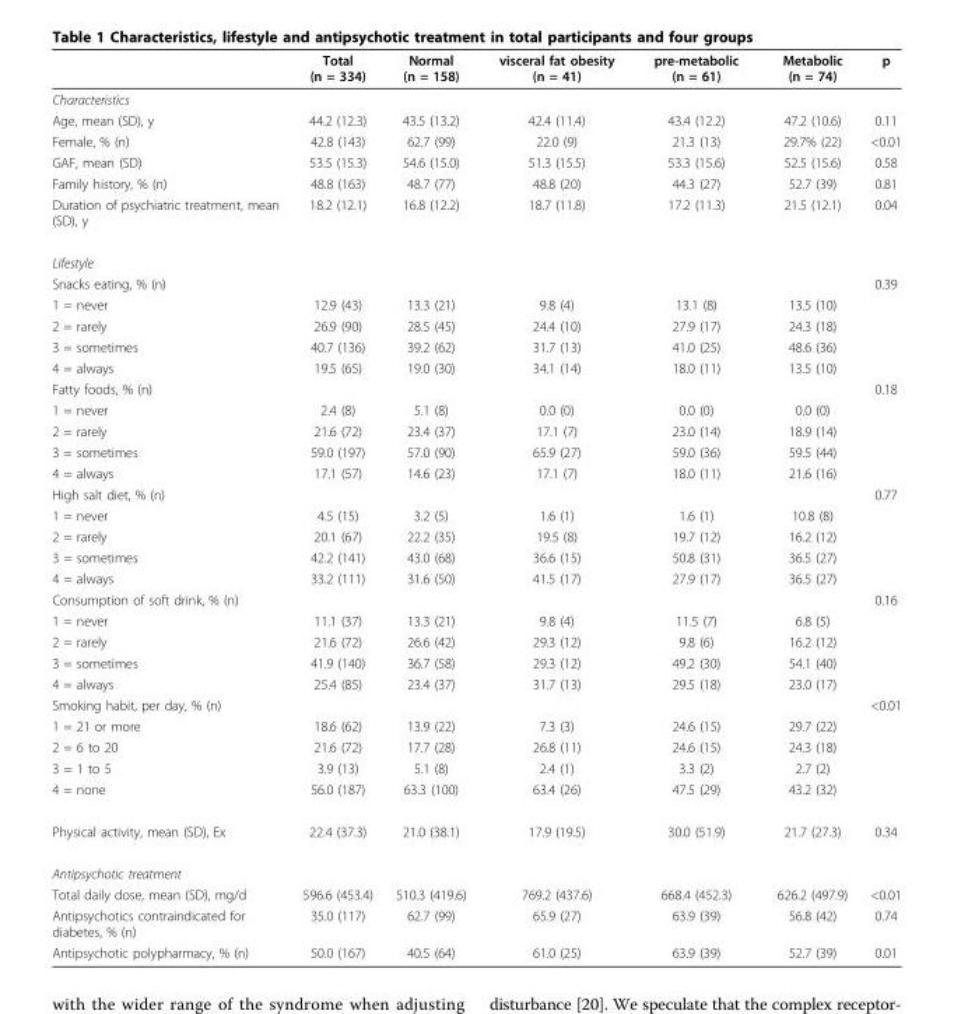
<table><thead><tr><td></td><td>Total (n = 334)</td><td>Normal (n = 158)</td><td>visceral fat obesity (n = 41)</td><td>pre-metabolic (n = 61)</td><td>Metabolic (n = 74)</td><td>p</td></tr></thead><tbody><tr><td colspan="7">Characteristics</td></tr><tr><td>Age, mean (SD), y</td><td>44.2 (12.3)</td><td>43.5 (13.2)</td><td>42.4 (11.4)</td><td>43.4 (12.2)</td><td>47.2 (10.6)</td><td>0.11</td></tr><tr><td>Female, % (n)</td><td>42.8 (143)</td><td>62.7 (99)</td><td>22.0 (9)</td><td>21.3 (13)</td><td>29.7% (22)</td><td>&lt;0.01</td></tr><tr><td>GAF, mean (SD)</td><td>53.5 (15.3)</td><td>54.6 (15.0)</td><td>51.3 (15.5)</td><td>53.3 (15.6)</td><td>52.5 (15.6)</td><td>0.58</td></tr><tr><td>Family history, % (n)</td><td>48.8 (163)</td><td>48.7 (77)</td><td>48.8 (20)</td><td>44.3 (27)</td><td>52.7 (39)</td><td>0.81</td></tr><tr><td>Duration of psychiatric treatment, mean (SD), y</td><td>18.2 (12.1)</td><td>16.8 (12.2)</td><td>18.7 (11.8)</td><td>17.2 (11.3)</td><td>21.5 (12.1)</td><td>0.04</td></tr><tr><td colspan="7">Lifestyle</td></tr><tr><td>Snacks eating, % (n)</td><td></td><td></td><td></td><td></td><td></td><td>0.39</td></tr><tr><td>1 = never</td><td>12.9 (43)</td><td>13.3 (21)</td><td>9.8 (4)</td><td>13.1 (8)</td><td>13.5 (10)</td><td></td></tr><tr><td>2 = rarely</td><td>26.9 (90)</td><td>28.5 (45)</td><td>24.4 (10)</td><td>27.9 (17)</td><td>24.3 (18)</td><td></td></tr><tr><td>3 = sometimes</td><td>40.7 (136)</td><td>39.2 (62)</td><td>31.7 (13)</td><td>41.0 (25)</td><td>48.6 (36)</td><td></td></tr><tr><td>4 = always</td><td>19.5 (65)</td><td>19.0 (30)</td><td>34.1 (14)</td><td>18.0 (11)</td><td>13.5 (10)</td><td></td></tr><tr><td>Fatty foods, % (n)</td><td></td><td></td><td></td><td></td><td></td><td>0.18</td></tr><tr><td>1 = never</td><td>2.4 (8)</td><td>5.1 (8)</td><td>0.0 (0)</td><td>0.0 (0)</td><td>0.0 (0)</td><td></td></tr><tr><td>2 = rarely</td><td>21.6 (72)</td><td>23.4 (37)</td><td>17.1 (7)</td><td>23.0 (14)</td><td>18.9 (14)</td><td></td></tr><tr><td>3 = sometimes</td><td>59.0 (197)</td><td>57.0 (90)</td><td>65.9 (27)</td><td>59.0 (36)</td><td>59.5 (44)</td><td></td></tr><tr><td>4 = always</td><td>17.1 (57)</td><td>14.6 (23)</td><td>17.1 (7)</td><td>18.0 (11)</td><td>21.6 (16)</td><td></td></tr><tr><td>High salt diet, % (n)</td><td></td><td></td><td></td><td></td><td></td><td>0.77</td></tr><tr><td>1 = never</td><td>4.5 (15)</td><td>3.2 (5)</td><td>1.6 (1)</td><td>1.6 (1)</td><td>10.8 (8)</td><td></td></tr><tr><td>2 = rarely</td><td>20.1 (67)</td><td>22.2 (35)</td><td>19.5 (8)</td><td>19.7 (12)</td><td>16.2 (12)</td><td></td></tr><tr><td>3 = sometimes</td><td>42.2 (141)</td><td>43.0 (68)</td><td>36.6 (15)</td><td>50.8 (31)</td><td>36.5 (27)</td><td></td></tr><tr><td>4 = always</td><td>33.2 (111)</td><td>31.6 (50)</td><td>41.5 (17)</td><td>27.9 (17)</td><td>36.5 (27)</td><td></td></tr><tr><td>Consumption of soft drink, % (n)</td><td></td><td></td><td></td><td></td><td></td><td>0.16</td></tr><tr><td>1 = never</td><td>11.1 (37)</td><td>13.3 (21)</td><td>9.8 (4)</td><td>11.5 (7)</td><td>6.8 (5)</td><td></td></tr><tr><td>2 = rarely</td><td>21.6 (72)</td><td>26.6 (42)</td><td>29.3 (12)</td><td>9.8 (6)</td><td>16.2 (12)</td><td></td></tr><tr><td>3 = sometimes</td><td>41.9 (140)</td><td>36.7 (58)</td><td>29.3 (12)</td><td>49.2 (30)</td><td>54.1 (40)</td><td></td></tr><tr><td>4 = always</td><td>25.4 (85)</td><td>23.4 (37)</td><td>31.7 (13)</td><td>29.5 (18)</td><td>23.0 (17)</td><td></td></tr><tr><td>Smoking habit, per day, % (n)</td><td></td><td></td><td></td><td></td><td></td><td>&lt;0.01</td></tr><tr><td>1 = 21 or more</td><td>18.6 (62)</td><td>13.9 (22)</td><td>7.3 (3)</td><td>24.6 (15)</td><td>29.7 (22)</td><td></td></tr><tr><td>2 = 6 to 20</td><td>21.6 (72)</td><td>17.7 (28)</td><td>26.8 (11)</td><td>24.6 (15)</td><td>24.3 (18)</td><td></td></tr><tr><td>3 = 1 to 5</td><td>3.9 (13)</td><td>5.1 (8)</td><td>2.4 (1)</td><td>3.3 (2)</td><td>2.7 (2)</td><td></td></tr><tr><td>4 = none</td><td>56.0 (187)</td><td>63.3 (100)</td><td>63.4 (26)</td><td>47.5 (29)</td><td>43.2 (32)</td><td></td></tr><tr><td>Physical activity, mean (SD), Ex</td><td>22.4 (37.3)</td><td>21.0 (38.1)</td><td>17.9 (19.5)</td><td>30.0 (51.9)</td><td>21.7 (27.3)</td><td>0.34</td></tr><tr><td colspan="7">Antipsychotic treatment</td></tr><tr><td>Total daily dose, mean (SD), mg/d</td><td>596.6 (453.4)</td><td>510.3 (419.6)</td><td>769.2 (437.6)</td><td>668.4 (452.3)</td><td>626.2 (497.9)</td><td>&lt;0.01</td></tr><tr><td>Antipsychotics contraindicated for diabetes, % (n)</td><td>35.0 (117)</td><td>62.7 (99)</td><td>65.9 (27)</td><td>63.9 (39)</td><td>56.8 (42)</td><td>0.74</td></tr><tr><td>Antipsychotic polypharmacy, % (n)</td><td>50.0 (167)</td><td>40.5 (64)</td><td>61.0 (25)</td><td>63.9 (39)</td><td>52.7 (39)</td><td>0.01</td></tr></tbody></table>